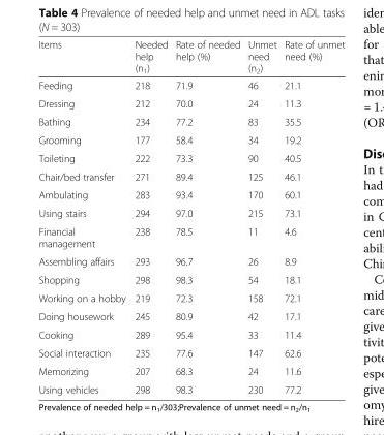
<table><thead><tr><td>Items</td><td>Needed help (n<sub>1</sub>)</td><td>Rate of needed help (%)</td><td>Unmet need (n<sub>2</sub>)</td><td>Rate of unmet need (%)</td></tr></thead><tbody><tr><td>Feeding</td><td>218</td><td>71.9</td><td>46</td><td>21.1</td></tr><tr><td>Dressing</td><td>212</td><td>70.0</td><td>24</td><td>11.3</td></tr><tr><td>Bathing</td><td>234</td><td>77.2</td><td>83</td><td>35.5</td></tr><tr><td>Grooming</td><td>177</td><td>58.4</td><td>34</td><td>19.2</td></tr><tr><td>Toileting</td><td>222</td><td>73.3</td><td>90</td><td>40.5</td></tr><tr><td>Chair/bed transfer</td><td>271</td><td>89.4</td><td>125</td><td>46.1</td></tr><tr><td>Ambulating</td><td>283</td><td>93.4</td><td>170</td><td>60.1</td></tr><tr><td>Using stairs</td><td>294</td><td>97.0</td><td>215</td><td>73.1</td></tr><tr><td>Financial management</td><td>238</td><td>78.5</td><td>11</td><td>4.6</td></tr><tr><td>Assembling affairs</td><td>293</td><td>96.7</td><td>26</td><td>8.9</td></tr><tr><td>Shopping</td><td>298</td><td>98.3</td><td>54</td><td>18.1</td></tr><tr><td>Working on a hobby</td><td>219</td><td>72.3</td><td>158</td><td>72.1</td></tr><tr><td>Doing housework</td><td>245</td><td>80.9</td><td>42</td><td>17.1</td></tr><tr><td>Cooking</td><td>289</td><td>95.4</td><td>33</td><td>11.4</td></tr><tr><td>Social interaction</td><td>235</td><td>77.6</td><td>147</td><td>62.6</td></tr><tr><td>Memorizing</td><td>207</td><td>68.3</td><td>24</td><td>11.6</td></tr><tr><td>Using vehicles</td><td>298</td><td>98.3</td><td>230</td><td>77.2</td></tr></tbody></table>